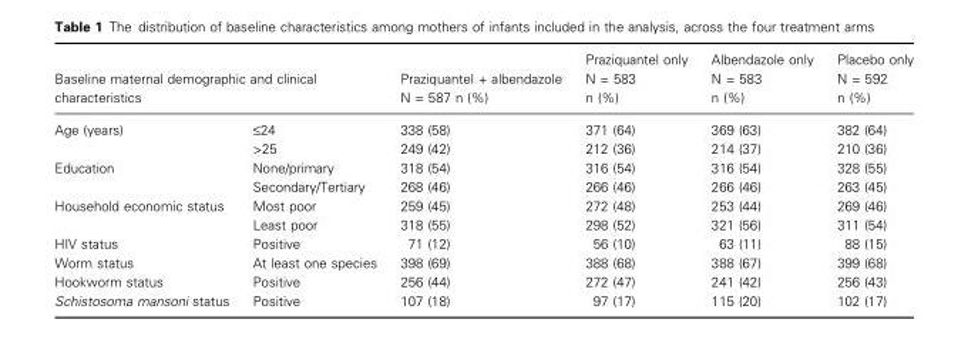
<table><thead><tr><td colspan="2">Baseline maternal demographic and clinical characteristics</td><td rowspan="2">Praziquantel + albendazole N = 587 n (%) 338 (58)</td><td rowspan="2">Praziquantel only N = 583 n (%) 371 (64)</td><td rowspan="2">Albendazole only N = 583 n (%) 369 (63)</td><td rowspan="2">Placebo only N = 592 n (%) 382 (64)</td></tr><tr><td>Age (years)</td><td>≤24</td></tr></thead><tbody><tr><td></td><td>&gt;25</td><td>249 (42)</td><td>212 (36)</td><td>214 (37)</td><td>210 (36)</td></tr><tr><td rowspan="2">Education</td><td>None/primary</td><td>318 (54)</td><td>316 (54)</td><td>316 (54)</td><td>328 (55)</td></tr><tr><td>Secondary/Tertiary</td><td>268 (46)</td><td>266 (46)</td><td>266 (46)</td><td>263 (45)</td></tr><tr><td rowspan="2">Household economic status</td><td>Most poor</td><td>259 (45)</td><td>272 (48)</td><td>253 (44)</td><td>269 (46)</td></tr><tr><td>Least poor</td><td>318 (55)</td><td>298 (52)</td><td>321 (56)</td><td>311 (54)</td></tr><tr><td>HIV status</td><td>Positive</td><td>71 (12)</td><td>56 (10)</td><td>63 (11)</td><td>88 (15)</td></tr><tr><td>Worm status</td><td>At least one species</td><td>398 (69)</td><td>388 (68)</td><td>388 (67)</td><td>399 (68)</td></tr><tr><td>Hookworm status</td><td>Positive</td><td>256 (44)</td><td>272 (47)</td><td>241 (42)</td><td>256 (43)</td></tr><tr><td>Schistosoma mansoni status</td><td>Positive</td><td>107 (18)</td><td>97 (17)</td><td>115 (20)</td><td>102 (17)</td></tr></tbody></table>